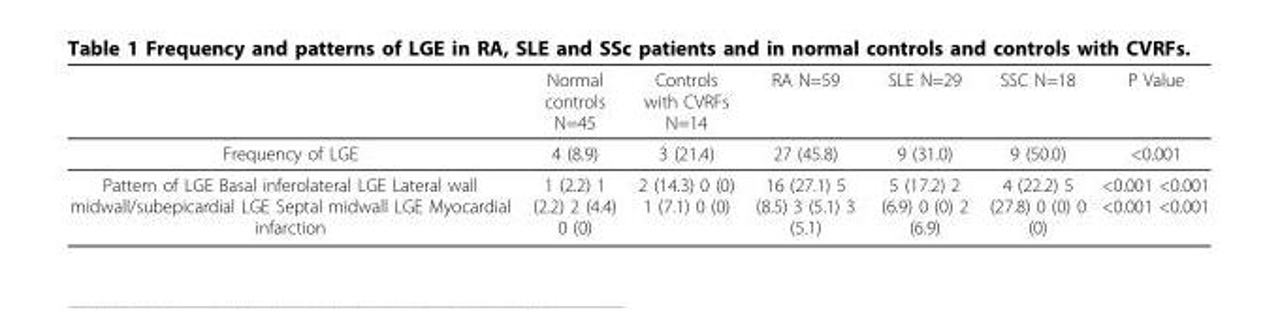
<table><thead><tr><td></td><td>Normal controls N=45</td><td>Controls with CVRFs N=14</td><td>RA N=59</td><td>SLE N=29</td><td>SSC N=18</td><td>P Value</td></tr></thead><tbody><tr><td>Frequency of LGE</td><td>4 (8.9)</td><td>3 (21.4)</td><td>27 (45.8)</td><td>9 (31.0)</td><td>9 (50.0)</td><td>&lt;0.001</td></tr><tr><td>Pattern of LGE Basal inferolateral LGE Lateral wall midwall/subepicardial LGE Septal midwall LGE Myocardial infarction</td><td>1 (2.2) 1 (2.2) 2 (4.4) 0 (0)</td><td>2 (14.3) 0 (0) 1 (7.1) 0 (0)</td><td>16 (27.1) 5 (8.5) 3 (5.1) 3 (5.1)</td><td>5 (17.2) 2 (6.9) 0 (0) 2 (6.9)</td><td>4 (22.2) 5 (27.8) 0 (0) 0 (0)</td><td>&lt;0.001 &lt;0.001 &lt;0.001 &lt;0.001</td></tr></tbody></table>